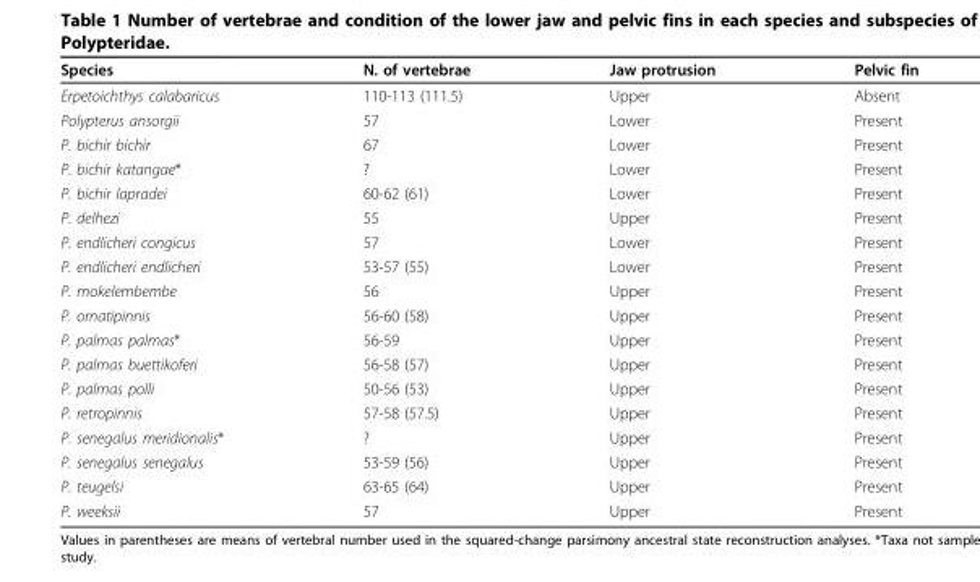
<table><thead><tr><td>Species</td><td>N. of vertebrae</td><td>Jaw protrusion</td><td>Pelvic fin</td></tr></thead><tbody><tr><td>Erpetoichthys calabaricus</td><td>110-113 (111.5)</td><td>Upper</td><td>Absent</td></tr><tr><td>Polypterus ansorgii</td><td>57</td><td>Lower</td><td>Present</td></tr><tr><td>P. bichir bichir</td><td>67</td><td>Lower</td><td>Present</td></tr><tr><td>P. bichir katangae*</td><td>?</td><td>Lower</td><td>Present</td></tr><tr><td>P. bichir lapradei</td><td>60-62 (61)</td><td>Lower</td><td>Present</td></tr><tr><td>P. delhezi</td><td>55</td><td>Upper</td><td>Present</td></tr><tr><td>P. endlicheri congicus</td><td>57</td><td>Lower</td><td>Present</td></tr><tr><td>P. endlicheri endlicheri</td><td>53-57 (55)</td><td>Lower</td><td>Present</td></tr><tr><td>P. mokelembembe</td><td>56</td><td>Upper</td><td>Present</td></tr><tr><td>P. ornatipinnis</td><td>56-60 (58)</td><td>Upper</td><td>Present</td></tr><tr><td>P. palmas palmas*</td><td>56-59</td><td>Upper</td><td>Present</td></tr><tr><td>P. palmas buettikoferi</td><td>56-58 (57)</td><td>Upper</td><td>Present</td></tr><tr><td>P. palmas polli</td><td>50-56 (53)</td><td>Upper</td><td>Present</td></tr><tr><td>P. retropinnis</td><td>57-58 (57.5)</td><td>Upper</td><td>Present</td></tr><tr><td>P. senegalus meridionalis*</td><td>?</td><td>Upper</td><td>Present</td></tr><tr><td>P. senegalus senegalus</td><td>53-59 (56)</td><td>Upper</td><td>Present</td></tr><tr><td>P. teugelsi</td><td>63-65 (64)</td><td>Upper</td><td>Present</td></tr><tr><td>P. weeksii</td><td>57</td><td>Upper</td><td>Present</td></tr></tbody></table>